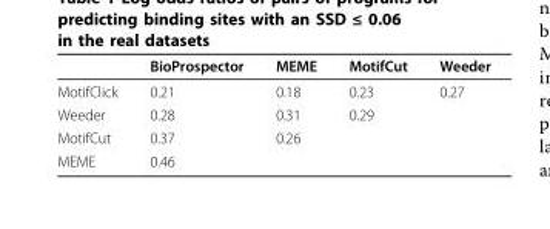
<table><thead><tr><td></td><td>BioProspector</td><td>MEME</td><td>MotifCut</td><td>Weeder</td></tr></thead><tbody><tr><td>MotifClick</td><td>0.21</td><td>0.18</td><td>0.23</td><td>0.27</td></tr><tr><td>Weeder</td><td>0.28</td><td>0.31</td><td>0.29</td><td></td></tr><tr><td>MotifCut</td><td>0.37</td><td>0.26</td><td></td><td></td></tr><tr><td>MEME</td><td>0.46</td><td></td><td></td><td></td></tr></tbody></table>